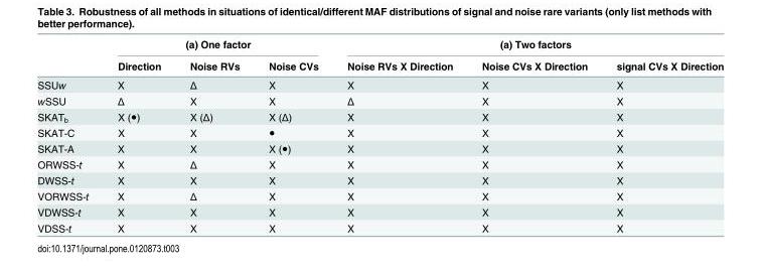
<table><thead><tr><td rowspan="2"></td><td colspan="3">(a) One factor</td><td colspan="3">(a) Two factors</td></tr><tr><td>Direction</td><td>Noise RVs</td><td>Noise CVs</td><td>Noise RVs X Direction</td><td>Noise CVs X Direction</td><td>signal CVs X Direction</td></tr></thead><tbody><tr><td>SSUw</td><td>X</td><td>Δ</td><td>X</td><td>X</td><td>X</td><td>X</td></tr><tr><td>wSSU</td><td>Δ</td><td>X</td><td>X</td><td>Δ</td><td>X</td><td>X</td></tr><tr><td>SKAT<sub>b</sub></td><td>X (●)</td><td>X (Δ)</td><td>X (Δ)</td><td>X</td><td>X</td><td>X</td></tr><tr><td>SKAT-C</td><td>X</td><td>X</td><td>●</td><td>X</td><td>X</td><td>X</td></tr><tr><td>SKAT-A</td><td>X</td><td>X</td><td>X (●)</td><td>X</td><td>X</td><td>X</td></tr><tr><td>ORWSS-t</td><td>X</td><td>Δ</td><td>X</td><td>X</td><td>X</td><td>X</td></tr><tr><td>DWSS-t</td><td>X</td><td>X</td><td>X</td><td>X</td><td>X</td><td>X</td></tr><tr><td>VORWSS-t</td><td>X</td><td>Δ</td><td>X</td><td>X</td><td>X</td><td>X</td></tr><tr><td>VDWSS-t</td><td>X</td><td>X</td><td>X</td><td>X</td><td>X</td><td>X</td></tr><tr><td>VDSS-t</td><td>X</td><td>X</td><td>X</td><td>X</td><td>X</td><td>X</td></tr></tbody></table>